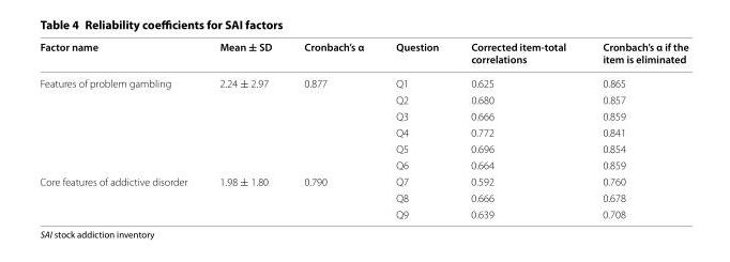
<table><thead><tr><td>Factor name</td><td>Mean ± SD</td><td>Cronbach’s α</td><td>Question</td><td>Corrected item‑total correlations</td><td>Cronbach’s α if the item is eliminated</td></tr></thead><tbody><tr><td rowspan="6">Features of problem gambling</td><td rowspan="6">2.24 ± 2.97</td><td rowspan="6">0.877</td><td>Q1</td><td>0.625</td><td>0.865</td></tr><tr><td>Q2</td><td>0.680</td><td>0.857</td></tr><tr><td>Q3</td><td>0.666</td><td>0.859</td></tr><tr><td>Q4</td><td>0.772</td><td>0.841</td></tr><tr><td>Q5</td><td>0.696</td><td>0.854</td></tr><tr><td>Q6</td><td>0.664</td><td>0.859</td></tr><tr><td rowspan="3">Core features of addictive disorder</td><td rowspan="3">1.98 ± 1.80</td><td rowspan="3">0.790</td><td>Q7</td><td>0.592</td><td>0.760</td></tr><tr><td>Q8</td><td>0.666</td><td>0.678</td></tr><tr><td>Q9</td><td>0.639</td><td>0.708</td></tr></tbody></table>